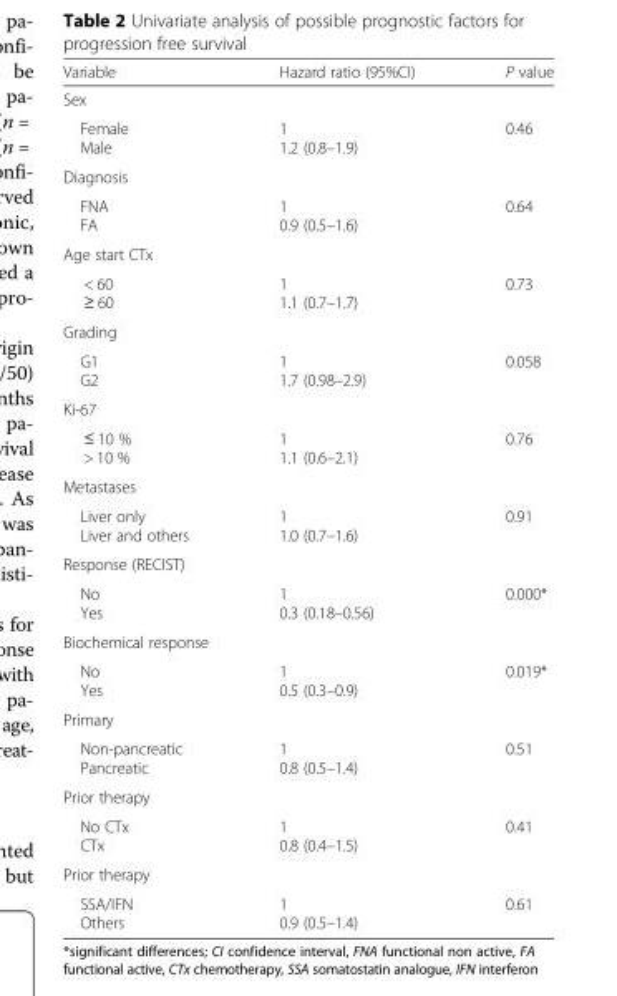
<table><thead><tr><td>Variable</td><td>Hazard ratio (95%CI)</td><td>P value</td></tr></thead><tbody><tr><td colspan="3">Sex</td></tr><tr><td>Female Male</td><td>1 1.2 (0.8–1.9)</td><td>0.46</td></tr><tr><td colspan="3">Diagnosis</td></tr><tr><td>FNA FA</td><td>1 0.9 (0.5–1.6)</td><td>0.64</td></tr><tr><td colspan="3">Age start CTx</td></tr><tr><td>&lt; 60 ≥ 60</td><td>1 1.1 (0.7–1.7)</td><td>0.73</td></tr><tr><td colspan="3">Grading</td></tr><tr><td>G1 G2</td><td>1 1.7 (0.98–2.9)</td><td>0.058</td></tr><tr><td colspan="3">Ki-67</td></tr><tr><td>≤ 10 % &gt; 10 %</td><td>1 1.1 (0.6–2.1)</td><td>0.76</td></tr><tr><td colspan="3">Metastases</td></tr><tr><td>Liver only Liver and others</td><td>1 1.0 (0.7–1.6)</td><td>0.91</td></tr><tr><td colspan="3">Response (RECIST)</td></tr><tr><td>No Yes</td><td>1 0.3 (0.18–0.56)</td><td>0.000*</td></tr><tr><td colspan="3">Biochemical response</td></tr><tr><td>No Yes</td><td>1 0.5 (0.3–0.9)</td><td>0.019*</td></tr><tr><td colspan="3">Primary</td></tr><tr><td>Non-pancreatic Pancreatic</td><td>1 0.8 (0.5–1.4)</td><td>0.51</td></tr><tr><td colspan="3">Prior therapy</td></tr><tr><td>No CTx CTx</td><td>1 0.8 (0.4–1.5)</td><td>0.41</td></tr><tr><td colspan="3">Prior therapy</td></tr><tr><td>SSA/IFN Others</td><td>1 0.9 (0.5–1.4)</td><td>0.61</td></tr></tbody></table>